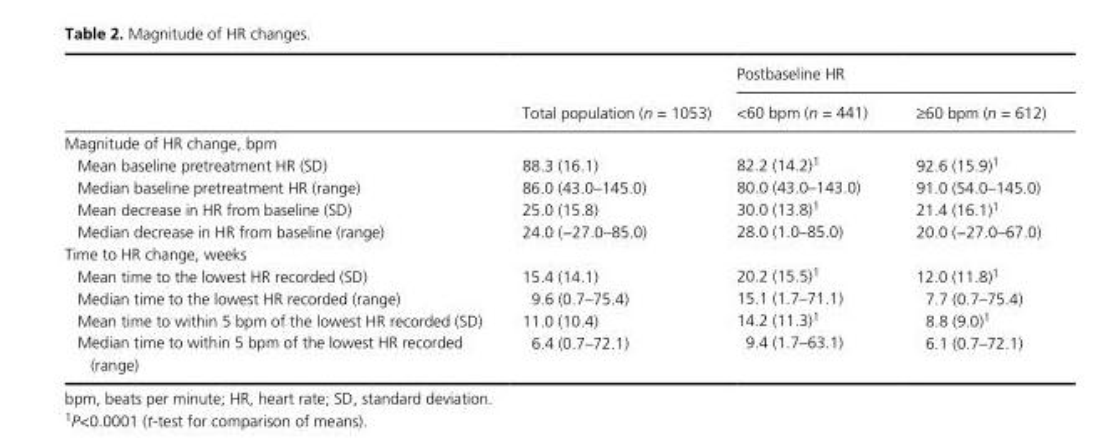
<table><thead><tr><td rowspan="2"></td><td rowspan="2">Total population (n = 1053)</td><td colspan="2">Postbaseline HR</td></tr><tr><td>&lt;60 bpm (n = 441)</td><td>≥60 bpm (n = 612)</td></tr></thead><tbody><tr><td colspan="4">Magnitude of HR change, bpm</td></tr><tr><td>Mean baseline pretreatment HR (SD)</td><td>88.3 (16.1)</td><td>82.2 (14.2)1</td><td>92.6 (15.9)1</td></tr><tr><td>Median baseline pretreatment HR (range)</td><td>86.0 (43.0–145.0)</td><td>80.0 (43.0–143.0)</td><td>91.0 (54.0–145.0)</td></tr><tr><td>Mean decrease in HR from baseline (SD)</td><td>25.0 (15.8)</td><td>30.0 (13.8)1</td><td>21.4 (16.1)1</td></tr><tr><td>Median decrease in HR from baseline (range)</td><td>24.0 (−27.0–85.0)</td><td>28.0 (1.0–85.0)</td><td>20.0 (−27.0–67.0)</td></tr><tr><td colspan="4">Time to HR change, weeks</td></tr><tr><td>Mean time to the lowest HR recorded (SD)</td><td>15.4 (14.1)</td><td>20.2 (15.5)1</td><td>12.0 (11.8)1</td></tr><tr><td>Median time to the lowest HR recorded (range)</td><td>9.6 (0.7–75.4)</td><td>15.1 (1.7–71.1)</td><td>7.7 (0.7–75.4)</td></tr><tr><td>Mean time to within 5 bpm of the lowest HR recorded (SD)</td><td>11.0 (10.4)</td><td>14.2 (11.3)1</td><td>8.8 (9.0)1</td></tr><tr><td>Median time to within 5 bpm of the lowest HR recorded (range)</td><td>6.4 (0.7–72.1)</td><td>9.4 (1.7–63.1)</td><td>6.1 (0.7–72.1)</td></tr></tbody></table>